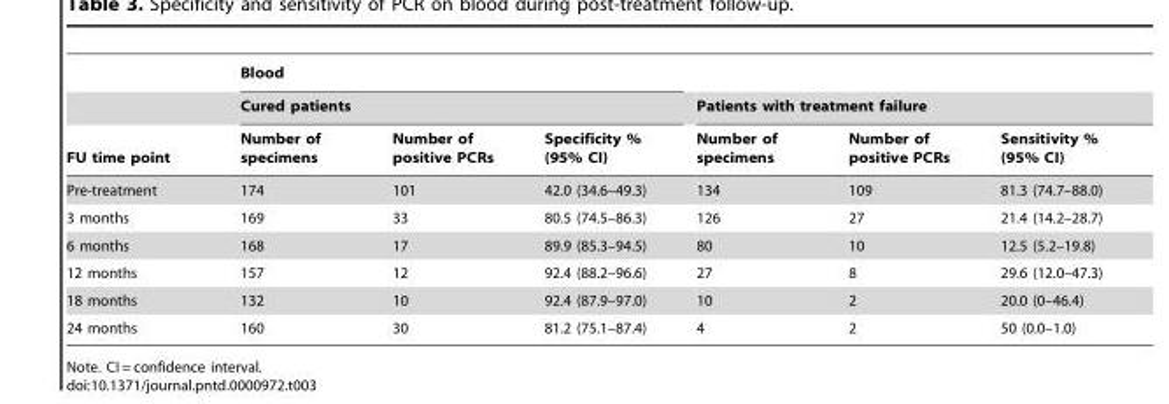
<table><thead><tr><td rowspan="3">FU time point</td><td rowspan="2" colspan="3">Blood Cured patients</td><td></td><td></td><td></td></tr><tr><td colspan="3">Patients with treatment failure</td></tr><tr><td>Number of specimens</td><td>Number of positive PCRs</td><td>Specificity % (95% CI)</td><td>Number of specimens</td><td>Number of positive PCRs</td><td>Sensitivity % (95% CI)</td></tr></thead><tbody><tr><td>Pre-treatment</td><td>174</td><td>101</td><td>42.0 (34.6–49.3)</td><td>134</td><td>109</td><td>81.3 (74.7–88.0)</td></tr><tr><td>3 months</td><td>169</td><td>33</td><td>80.5 (74.5–86.3)</td><td>126</td><td>27</td><td>21.4 (14.2–28.7)</td></tr><tr><td>6 months</td><td>168</td><td>17</td><td>89.9 (85.3–94.5)</td><td>80</td><td>10</td><td>12.5 (5.2–19.8)</td></tr><tr><td>12 months</td><td>157</td><td>12</td><td>92.4 (88.2–96.6)</td><td>27</td><td>8</td><td>29.6 (12.0–47.3)</td></tr><tr><td>18 months</td><td>132</td><td>10</td><td>92.4 (87.9–97.0)</td><td>10</td><td>2</td><td>20.0 (0–46.4)</td></tr><tr><td>24 months</td><td>160</td><td>30</td><td>81.2 (75.1–87.4)</td><td>4</td><td>2</td><td>50 (0.0–1.0)</td></tr></tbody></table>